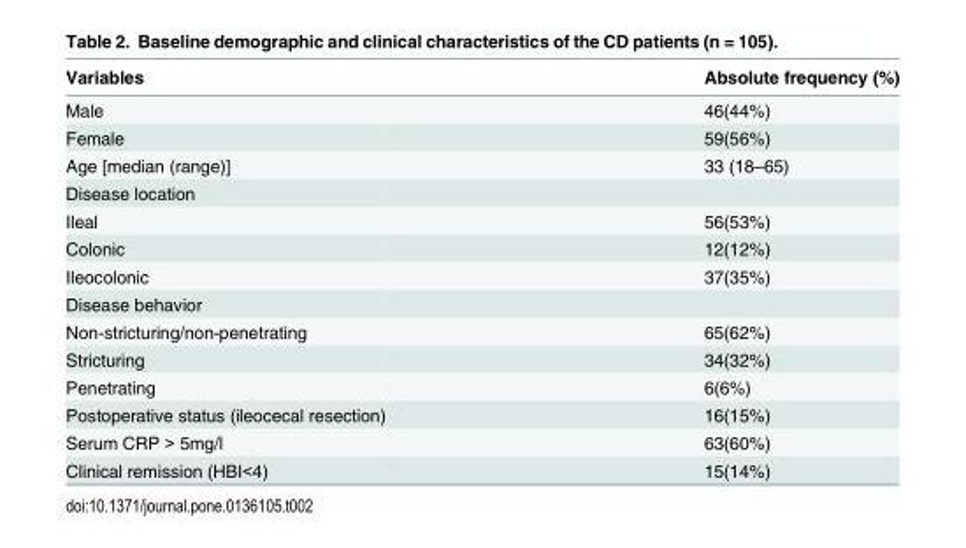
<table><thead><tr><td>Variables</td><td>Absolute frequency (%)</td></tr></thead><tbody><tr><td>Male</td><td>46(44%)</td></tr><tr><td>Female</td><td>59(56%)</td></tr><tr><td>Age [median (range)]</td><td>33 (18–65)</td></tr><tr><td colspan="2">Disease location</td></tr><tr><td>Ileal</td><td>56(53%)</td></tr><tr><td>Colonic</td><td>12(12%)</td></tr><tr><td>Ileocolonic</td><td>37(35%)</td></tr><tr><td colspan="2">Disease behavior</td></tr><tr><td>Non-stricturing/non-penetrating</td><td>65(62%)</td></tr><tr><td>Stricturing</td><td>34(32%)</td></tr><tr><td>Penetrating</td><td>6(6%)</td></tr><tr><td>Postoperative status (ileocecal resection)</td><td>16(15%)</td></tr><tr><td>Serum CRP &gt; 5mg/l</td><td>63(60%)</td></tr><tr><td>Clinical remission (HBI&lt;4)</td><td>15(14%)</td></tr></tbody></table>